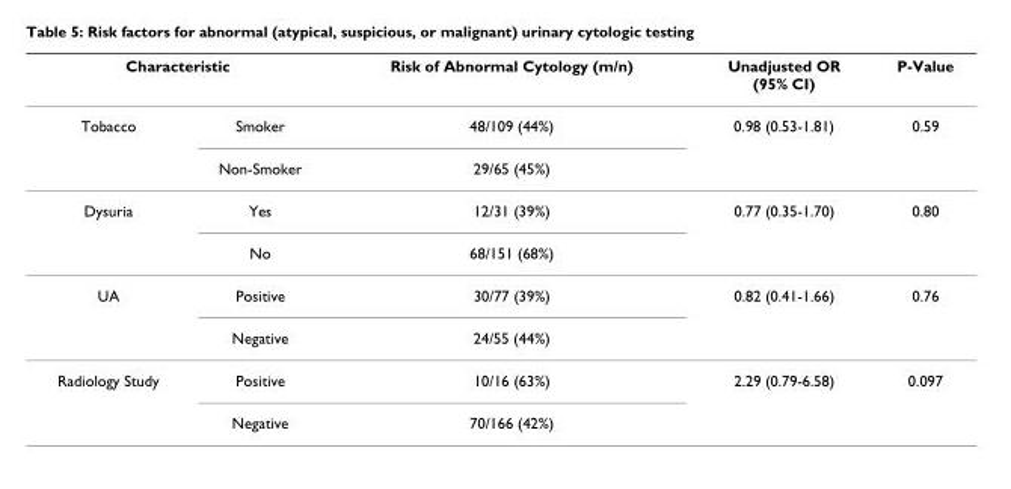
<table><thead><tr><td colspan="2">Characteristic</td><td rowspan="2">Risk of Abnormal Cytology (m/n) 48/109 (44%)</td><td rowspan="2">Unadjusted OR (95% CI) 0.98 (0.53-1.81)</td><td rowspan="2">P-Value 0.59</td></tr><tr><td>Tobacco</td><td>Smoker</td></tr></thead><tbody><tr><td></td><td>Non-Smoker</td><td>29/65 (45%)</td><td></td><td></td></tr><tr><td rowspan="2">Dysuria</td><td>Yes</td><td>12/31 (39%)</td><td>0.77 (0.35-1.70)</td><td>0.80</td></tr><tr><td>No</td><td>68/151 (68%)</td><td></td><td></td></tr><tr><td rowspan="2">UA</td><td>Positive</td><td>30/77 (39%)</td><td>0.82 (0.41-1.66)</td><td>0.76</td></tr><tr><td>Negative</td><td>24/55 (44%)</td><td></td><td></td></tr><tr><td rowspan="2">Radiology Study</td><td>Positive</td><td>10/16 (63%)</td><td>2.29 (0.79-6.58)</td><td>0.097</td></tr><tr><td>Negative</td><td>70/166 (42%)</td><td></td><td></td></tr></tbody></table>